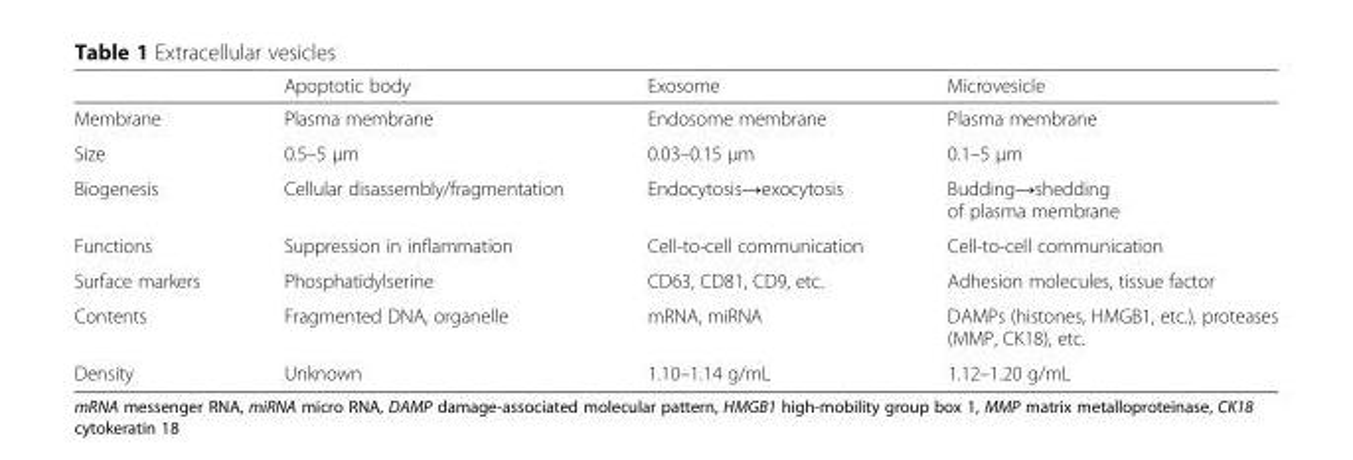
<table><thead><tr><td></td><td>Apoptotic body</td><td>Exosome</td><td>Microvesicle</td></tr></thead><tbody><tr><td>Membrane</td><td>Plasma membrane</td><td>Endosome membrane</td><td>Plasma membrane</td></tr><tr><td>Size</td><td>0.5–5 μm</td><td>0.03–0.15 μm</td><td>0.1–5 μm</td></tr><tr><td>Biogenesis</td><td>Cellular disassembly/fragmentation</td><td>Endocytosis→exocytosis</td><td>Budding→shedding of plasma membrane</td></tr><tr><td>Functions</td><td>Suppression in inflammation</td><td>Cell-to-cell communication</td><td>Cell-to-cell communication</td></tr><tr><td>Surface markers</td><td>Phosphatidylserine</td><td>CD63, CD81, CD9, etc.</td><td>Adhesion molecules, tissue factor</td></tr><tr><td>Contents</td><td>Fragmented DNA, organelle</td><td>mRNA, miRNA</td><td>DAMPs (histones, HMGB1, etc.), proteases (MMP, CK18), etc.</td></tr><tr><td>Density</td><td>Unknown</td><td>1.10–1.14 g/mL</td><td>1.12–1.20 g/mL</td></tr></tbody></table>